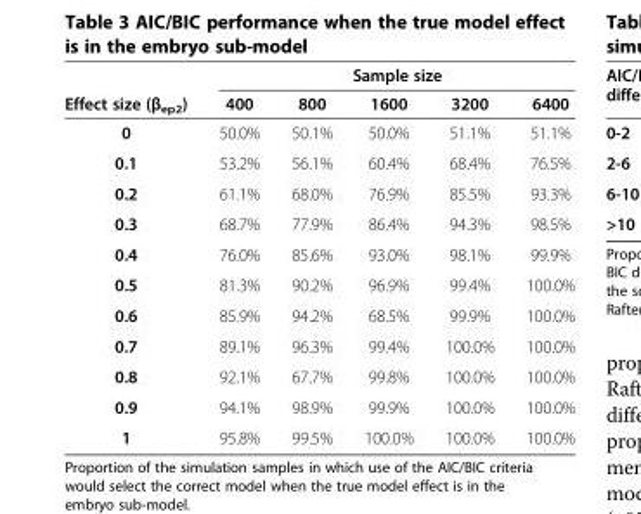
<table><thead><tr><td rowspan="2">Effect size (β<sub>ep2</sub>)</td><td colspan="5">Sample size</td></tr><tr><td>400</td><td>800</td><td>1600</td><td>3200</td><td>6400</td></tr></thead><tbody><tr><td>0</td><td>50.0%</td><td>50.1%</td><td>50.0%</td><td>51.1%</td><td>51.1%</td></tr><tr><td>0.1</td><td>53.2%</td><td>56.1%</td><td>60.4%</td><td>68.4%</td><td>76.5%</td></tr><tr><td>0.2</td><td>61.1%</td><td>68.0%</td><td>76.9%</td><td>85.5%</td><td>93.3%</td></tr><tr><td>0.3</td><td>68.7%</td><td>77.9%</td><td>86.4%</td><td>94.3%</td><td>98.5%</td></tr><tr><td>0.4</td><td>76.0%</td><td>85.6%</td><td>93.0%</td><td>98.1%</td><td>99.9%</td></tr><tr><td>0.5</td><td>81.3%</td><td>90.2%</td><td>96.9%</td><td>99.4%</td><td>100.0%</td></tr><tr><td>0.6</td><td>85.9%</td><td>94.2%</td><td>68.5%</td><td>99.9%</td><td>100.0%</td></tr><tr><td>0.7</td><td>89.1%</td><td>96.3%</td><td>99.4%</td><td>100.0%</td><td>100.0%</td></tr><tr><td>0.8</td><td>92.1%</td><td>67.7%</td><td>99.8%</td><td>100.0%</td><td>100.0%</td></tr><tr><td>0.9</td><td>94.1%</td><td>98.9%</td><td>99.9%</td><td>100.0%</td><td>100.0%</td></tr><tr><td>1</td><td>95.8%</td><td>99.5%</td><td>100.0%</td><td>100.0%</td><td>100.0%</td></tr></tbody></table>